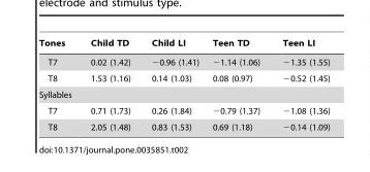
<table><thead><tr><td>Tones</td><td>Child TD</td><td>Child LI</td><td>Teen TD</td><td>Teen LI</td></tr></thead><tbody><tr><td>T7</td><td>0.02 (1.42)</td><td>−0.96 (1.41)</td><td>−1.14 (1.06)</td><td>−1.35 (1.55)</td></tr><tr><td>T8</td><td>1.53 (1.16)</td><td>0.14 (1.03)</td><td>0.08 (0.97)</td><td>−0.52 (1.45)</td></tr><tr><td colspan="5">Syllables</td></tr><tr><td>T7</td><td>0.71 (1.73)</td><td>0.26 (1.84)</td><td>−0.79 (1.37)</td><td>−1.08 (1.36)</td></tr><tr><td>T8</td><td>2.05 (1.48)</td><td>0.83 (1.53)</td><td>0.69 (1.18)</td><td>−0.14 (1.09)</td></tr></tbody></table>